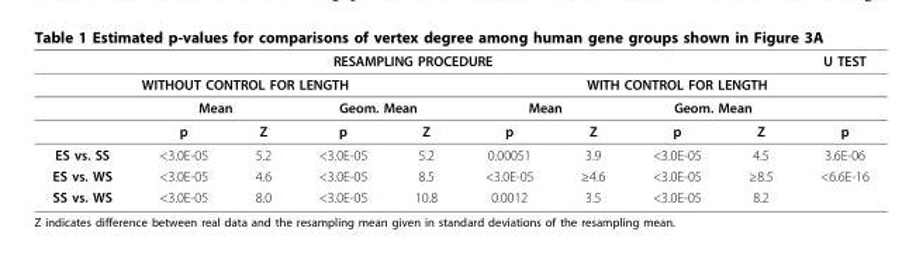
<table><thead><tr><td colspan="9">RESAMPLING PROCEDURE</td><td>U TEST</td></tr><tr><td colspan="5">WITHOUT CONTROL FOR LENGTH</td><td colspan="5">WITH CONTROL FOR LENGTH</td></tr><tr><td rowspan="2"></td><td colspan="2">Mean</td><td colspan="2">Geom. Mean</td><td colspan="2">Mean</td><td colspan="2">Geom. Mean</td><td rowspan="2">p</td></tr><tr><td>p</td><td>Z</td><td>p</td><td>Z</td><td>p</td><td>Z</td><td>p</td><td>Z</td></tr></thead><tbody><tr><td>ES vs. SS</td><td>&lt;3.0E-05</td><td>5.2</td><td>&lt;3.0E-05</td><td>5.2</td><td>0.00051</td><td>3.9</td><td>&lt;3.0E-05</td><td>4.5</td><td>3.6E-06</td></tr><tr><td>ES vs. WS</td><td>&lt;3.0E-05</td><td>4.6</td><td>&lt;3.0E-05</td><td>8.5</td><td>&lt;3.0E-05</td><td>≥4.6</td><td>&lt;3.0E-05</td><td>≥8.5</td><td>&lt;6.6E-16</td></tr><tr><td>SS vs. WS</td><td>&lt;3.0E-05</td><td>8.0</td><td>&lt;3.0E-05</td><td>10.8</td><td>0.0012</td><td>3.5</td><td>&lt;3.0E-05</td><td>8.2</td><td></td></tr></tbody></table>